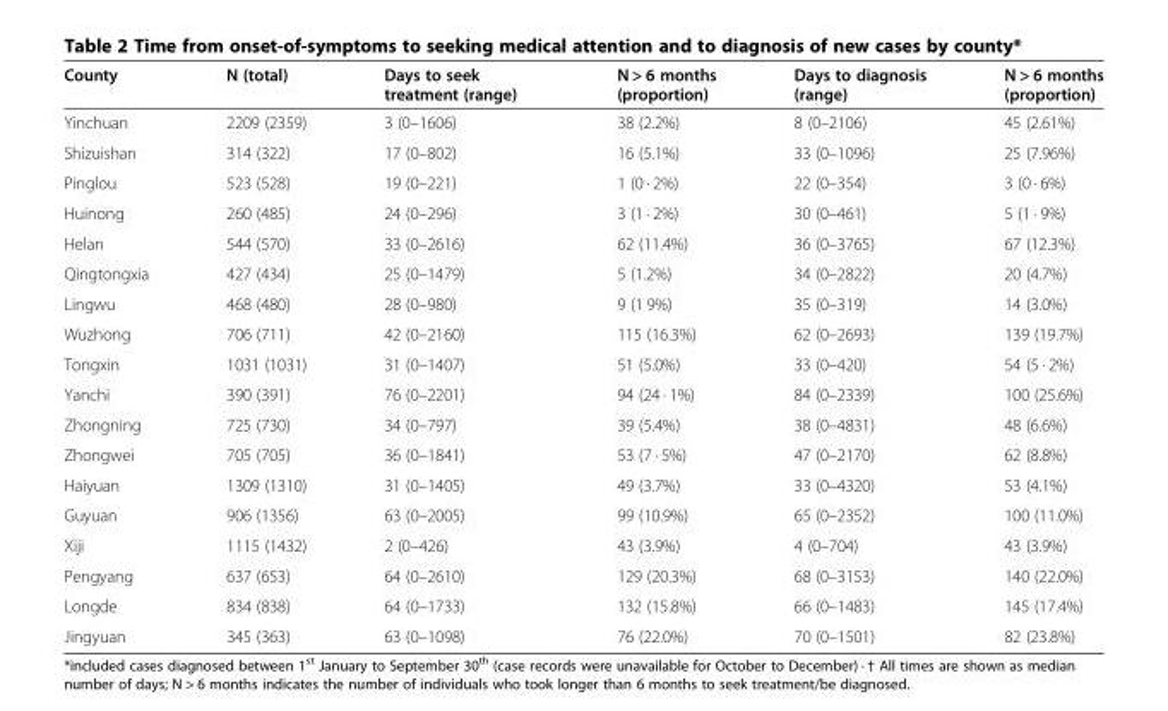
<table><thead><tr><td>County</td><td>N (total)</td><td>Days to seek treatment (range)</td><td>N &gt; 6 months (proportion)</td><td>Days to diagnosis (range)</td><td>N &gt; 6 months (proportion)</td></tr></thead><tbody><tr><td>Yinchuan</td><td>2209 (2359)</td><td>3 (0–1606)</td><td>38 (2.2%)</td><td>8 (0–2106)</td><td>45 (2.61%)</td></tr><tr><td>Shizuishan</td><td>314 (322)</td><td>17 (0–802)</td><td>16 (5.1%)</td><td>33 (0–1096)</td><td>25 (7.96%)</td></tr><tr><td>Pinglou</td><td>523 (528)</td><td>19 (0–221)</td><td>1 (0 · 2%)</td><td>22 (0–354)</td><td>3 (0 · 6%)</td></tr><tr><td>Huinong</td><td>260 (485)</td><td>24 (0–296)</td><td>3 (1 · 2%)</td><td>30 (0–461)</td><td>5 (1 · 9%)</td></tr><tr><td>Helan</td><td>544 (570)</td><td>33 (0–2616)</td><td>62 (11.4%)</td><td>36 (0–3765)</td><td>67 (12.3%)</td></tr><tr><td>Qingtongxia</td><td>427 (434)</td><td>25 (0–1479)</td><td>5 (1.2%)</td><td>34 (0–2822)</td><td>20 (4.7%)</td></tr><tr><td>Lingwu</td><td>468 (480)</td><td>28 (0–980)</td><td>9 (1 9%)</td><td>35 (0–319)</td><td>14 (3.0%)</td></tr><tr><td>Wuzhong</td><td>706 (711)</td><td>42 (0–2160)</td><td>115 (16.3%)</td><td>62 (0–2693)</td><td>139 (19.7%)</td></tr><tr><td>Tongxin</td><td>1031 (1031)</td><td>31 (0–1407)</td><td>51 (5.0%)</td><td>33 (0–420)</td><td>54 (5 · 2%)</td></tr><tr><td>Yanchi</td><td>390 (391)</td><td>76 (0–2201)</td><td>94 (24 · 1%)</td><td>84 (0–2339)</td><td>100 (25.6%)</td></tr><tr><td>Zhongning</td><td>725 (730)</td><td>34 (0–797)</td><td>39 (5.4%)</td><td>38 (0–4831)</td><td>48 (6.6%)</td></tr><tr><td>Zhongwei</td><td>705 (705)</td><td>36 (0–1841)</td><td>53 (7 · 5%)</td><td>47 (0–2170)</td><td>62 (8.8%)</td></tr><tr><td>Haiyuan</td><td>1309 (1310)</td><td>31 (0–1405)</td><td>49 (3.7%)</td><td>33 (0–4320)</td><td>53 (4.1%)</td></tr><tr><td>Guyuan</td><td>906 (1356)</td><td>63 (0–2005)</td><td>99 (10.9%)</td><td>65 (0–2352)</td><td>100 (11.0%)</td></tr><tr><td>Xiji</td><td>1115 (1432)</td><td>2 (0–426)</td><td>43 (3.9%)</td><td>4 (0–704)</td><td>43 (3.9%)</td></tr><tr><td>Pengyang</td><td>637 (653)</td><td>64 (0–2610)</td><td>129 (20.3%)</td><td>68 (0–3153)</td><td>140 (22.0%)</td></tr><tr><td>Longde</td><td>834 (838)</td><td>64 (0–1733)</td><td>132 (15.8%)</td><td>66 (0–1483)</td><td>145 (17.4%)</td></tr><tr><td>Jingyuan</td><td>345 (363)</td><td>63 (0–1098)</td><td>76 (22.0%)</td><td>70 (0–1501)</td><td>82 (23.8%)</td></tr></tbody></table>